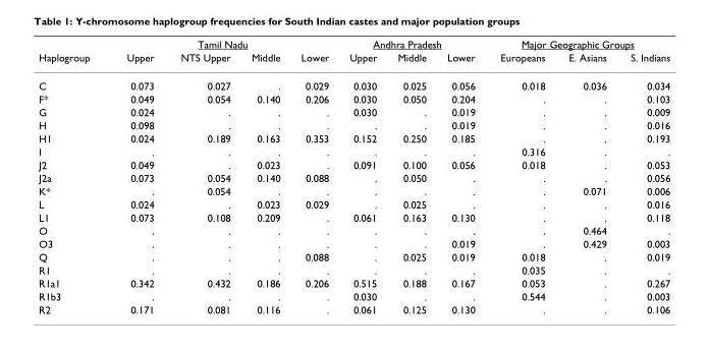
<table><thead><tr><td rowspan="2">Haplogroup</td><td colspan="4">Tamil Nadu</td><td colspan="3">Andhra Pradesh</td><td colspan="3">Major Geographic Groups</td></tr><tr><td>Upper</td><td>NTS Upper</td><td>Middle</td><td>Lower</td><td>Upper</td><td>Middle</td><td>Lower</td><td>Europeans</td><td>E. Asians</td><td>S. Indians</td></tr></thead><tbody><tr><td>C</td><td>0.073</td><td>0.027</td><td>.</td><td>0.029</td><td>0.030</td><td>0.025</td><td>0.056</td><td>0.018</td><td>0.036</td><td>0.034</td></tr><tr><td>F*</td><td>0.049</td><td>0.054</td><td>0.140</td><td>0.206</td><td>0.030</td><td>0.050</td><td>0.204</td><td>.</td><td>.</td><td>0.103</td></tr><tr><td>G</td><td>0.024</td><td>.</td><td>.</td><td>.</td><td>0.030</td><td>.</td><td>0.019</td><td>.</td><td>.</td><td>0.009</td></tr><tr><td>H</td><td>0.098</td><td>.</td><td>.</td><td>.</td><td>.</td><td>.</td><td>0.019</td><td>.</td><td>.</td><td>0.016</td></tr><tr><td>H1</td><td>0.024</td><td>0.189</td><td>0.163</td><td>0.353</td><td>0.152</td><td>0.250</td><td>0.185</td><td>.</td><td>.</td><td>0.193</td></tr><tr><td>I</td><td>.</td><td>.</td><td>.</td><td>.</td><td>.</td><td>.</td><td>.</td><td>0.316</td><td>.</td><td>.</td></tr><tr><td>J2</td><td>0.049</td><td>.</td><td>0.023</td><td>.</td><td>0.091</td><td>0.100</td><td>0.056</td><td>0.018</td><td>.</td><td>0.053</td></tr><tr><td>J2a</td><td>0.073</td><td>0.054</td><td>0.140</td><td>0.088</td><td>.</td><td>0.050</td><td>.</td><td>.</td><td>.</td><td>0.056</td></tr><tr><td>K*</td><td>.</td><td>0.054</td><td>.</td><td>.</td><td>.</td><td>.</td><td>.</td><td>.</td><td>0.071</td><td>0.006</td></tr><tr><td>L</td><td>0.024</td><td>.</td><td>0.023</td><td>0.029</td><td>.</td><td>0.025</td><td>.</td><td>.</td><td>.</td><td>0.016</td></tr><tr><td>L1</td><td>0.073</td><td>0.108</td><td>0.209</td><td>.</td><td>0.061</td><td>0.163</td><td>0.130</td><td>.</td><td>.</td><td>0.118</td></tr><tr><td>O</td><td>.</td><td>.</td><td>.</td><td>.</td><td>.</td><td>.</td><td>.</td><td>.</td><td>0.464</td><td>.</td></tr><tr><td>O3</td><td>.</td><td>.</td><td>.</td><td>.</td><td>.</td><td>.</td><td>0.019</td><td>.</td><td>0.429</td><td>0.003</td></tr><tr><td>Q</td><td>.</td><td>.</td><td>.</td><td>0.088</td><td>.</td><td>0.025</td><td>0.019</td><td>0.018</td><td>.</td><td>0.019</td></tr><tr><td>R1</td><td>.</td><td>.</td><td>.</td><td>.</td><td>.</td><td>.</td><td>.</td><td>0.035</td><td>.</td><td>.</td></tr><tr><td>R1a1</td><td>0.342</td><td>0.432</td><td>0.186</td><td>0.206</td><td>0.515</td><td>0.188</td><td>0.167</td><td>0.053</td><td>.</td><td>0.267</td></tr><tr><td>R1b3</td><td>.</td><td>.</td><td>.</td><td>.</td><td>0.030</td><td>.</td><td>.</td><td>0.544</td><td>.</td><td>0.003</td></tr><tr><td>R2</td><td>0.171</td><td>0.081</td><td>0.116</td><td>.</td><td>0.061</td><td>0.125</td><td>0.130</td><td>.</td><td>.</td><td>0.106</td></tr></tbody></table>